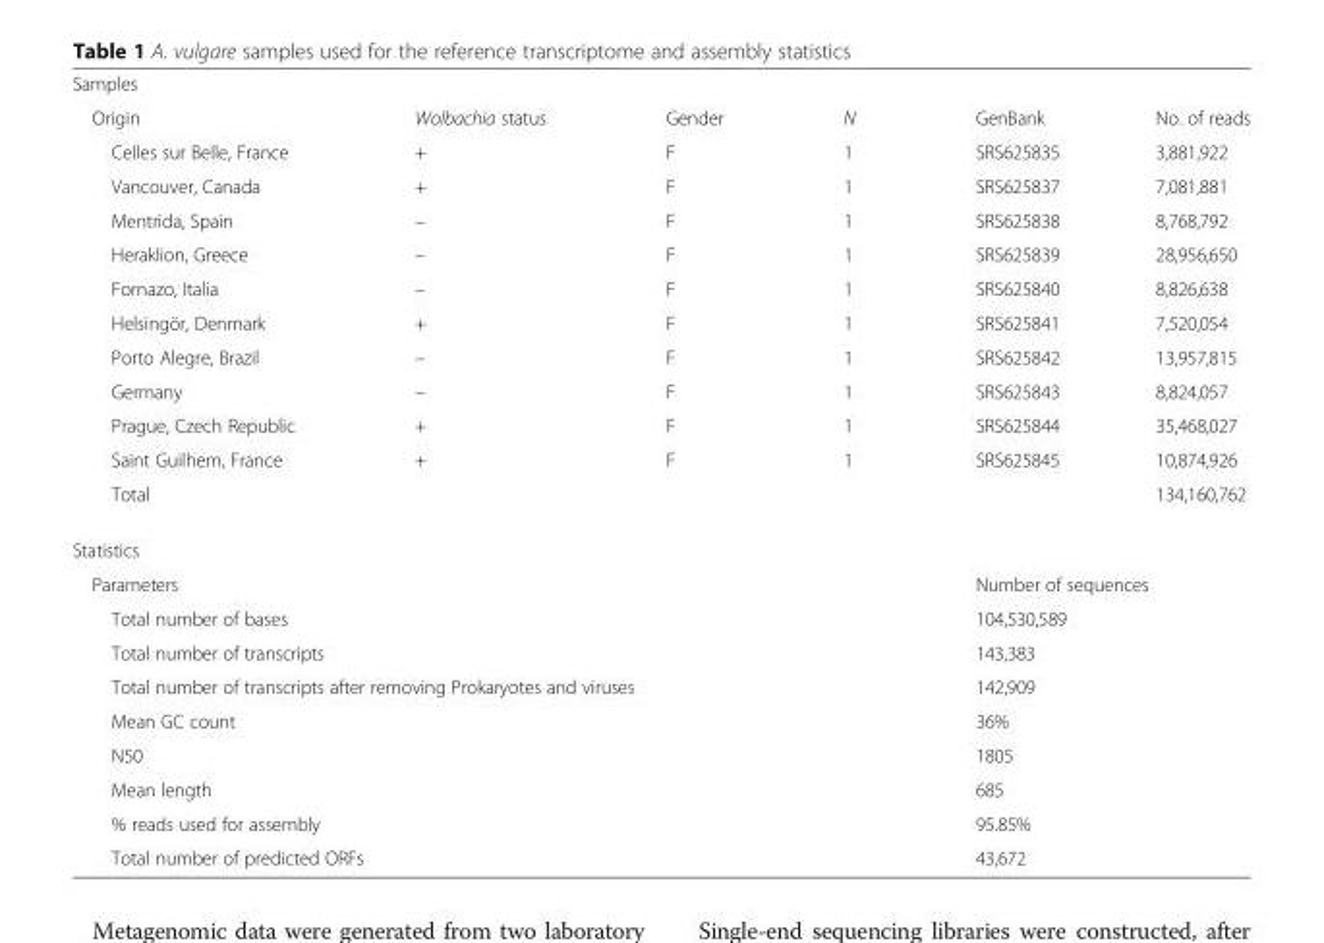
<table><tbody><tr><td colspan="6">Samples</td></tr><tr><td>Origin</td><td>Wolbachia status</td><td>Gender</td><td>N</td><td>GenBank</td><td>No. of reads</td></tr><tr><td>Celles sur Belle, France</td><td>+</td><td>F</td><td>1</td><td>SRS625835</td><td>3,881,922</td></tr><tr><td>Vancouver, Canada</td><td>+</td><td>F</td><td>1</td><td>SRS625837</td><td>7,081,881</td></tr><tr><td>Mentrida, Spain</td><td>–</td><td>F</td><td>1</td><td>SRS625838</td><td>8,768,792</td></tr><tr><td>Heraklion, Greece</td><td>–</td><td>F</td><td>1</td><td>SRS625839</td><td>28,956,650</td></tr><tr><td>Fornazo, Italia</td><td>–</td><td>F</td><td>1</td><td>SRS625840</td><td>8,826,638</td></tr><tr><td>Helsingör, Denmark</td><td>+</td><td>F</td><td>1</td><td>SRS625841</td><td>7,520,054</td></tr><tr><td>Porto Alegre, Brazil</td><td>–</td><td>F</td><td>1</td><td>SRS625842</td><td>13,957,815</td></tr><tr><td>Germany</td><td>–</td><td>F</td><td>1</td><td>SRS625843</td><td>8,824,057</td></tr><tr><td>Prague, Czech Republic</td><td>+</td><td>F</td><td>1</td><td>SRS625844</td><td>35,468,027</td></tr><tr><td>Saint Guilhem, France</td><td>+</td><td>F</td><td>1</td><td>SRS625845</td><td>10,874,926</td></tr><tr><td>Total</td><td></td><td></td><td></td><td></td><td>134,160,762</td></tr><tr><td colspan="6">Statistics</td></tr><tr><td colspan="4">Parameters</td><td colspan="2">Number of sequences</td></tr><tr><td colspan="4">Total number of bases</td><td colspan="2">104,530,589</td></tr><tr><td colspan="4">Total number of transcripts</td><td colspan="2">143,383</td></tr><tr><td colspan="4">Total number of transcripts after removing Prokaryotes and viruses</td><td colspan="2">142,909</td></tr><tr><td colspan="4">Mean GC count</td><td colspan="2">36%</td></tr><tr><td colspan="4">N50</td><td colspan="2">1805</td></tr><tr><td colspan="4">Mean length</td><td colspan="2">685</td></tr><tr><td colspan="4">% reads used for assembly</td><td colspan="2">95.85%</td></tr><tr><td colspan="4">Total number of predicted ORFs</td><td colspan="2">43,672</td></tr></tbody></table>